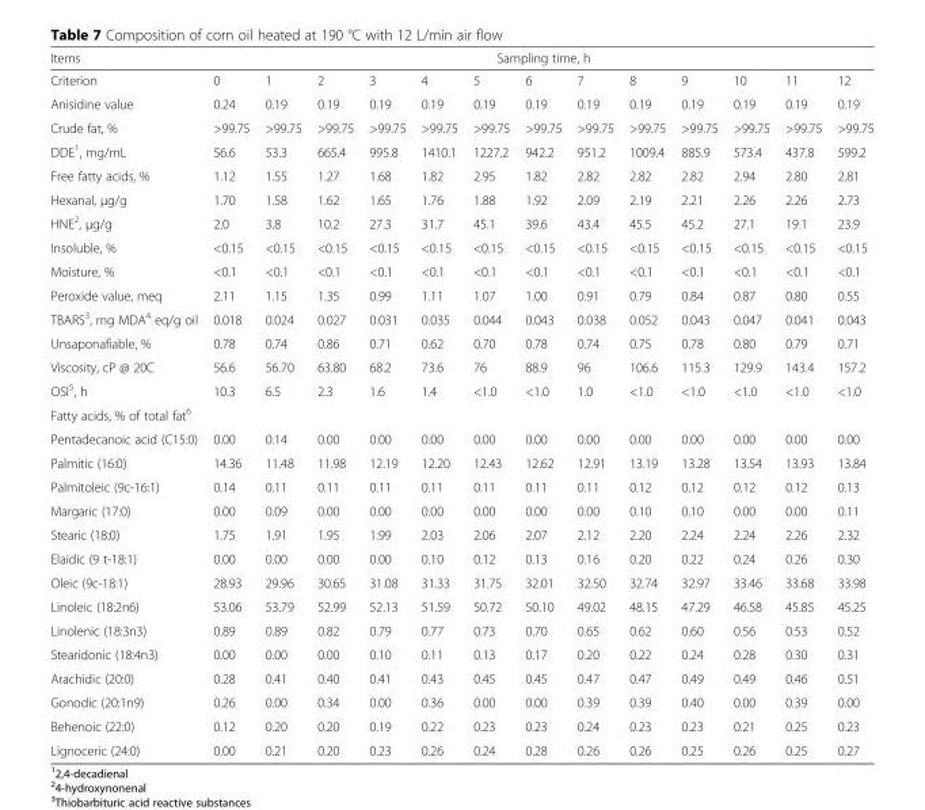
<table><thead><tr><td rowspan="2">Items Criterion</td><td colspan="13">Sampling time, h</td></tr><tr><td>0</td><td>1</td><td>2</td><td>3</td><td>4</td><td>5</td><td>6</td><td>7</td><td>8</td><td>9</td><td>10</td><td>11</td><td>12</td></tr></thead><tbody><tr><td>Anisidine value</td><td>0.24</td><td>0.19</td><td>0.19</td><td>0.19</td><td>0.19</td><td>0.19</td><td>0.19</td><td>0.19</td><td>0.19</td><td>0.19</td><td>0.19</td><td>0.19</td><td>0.19</td></tr><tr><td>Crude fat, %</td><td>&gt;99.75</td><td>&gt;99.75</td><td>&gt;99.75</td><td>&gt;99.75</td><td>&gt;99.75</td><td>&gt;99.75</td><td>&gt;99.75</td><td>&gt;99.75</td><td>&gt;99.75</td><td>&gt;99.75</td><td>&gt;99.75</td><td>&gt;99.75</td><td>&gt;99.75</td></tr><tr><td>DDE<sup>1</sup>, mg/mL</td><td>56.6</td><td>53.3</td><td>665.4</td><td>995.8</td><td>1410.1</td><td>1227.2</td><td>942.2</td><td>951.2</td><td>1009.4</td><td>885.9</td><td>573.4</td><td>437.8</td><td>599.2</td></tr><tr><td>Free fatty acids, %</td><td>1.12</td><td>1.55</td><td>1.27</td><td>1.68</td><td>1.82</td><td>2.95</td><td>1.82</td><td>2.82</td><td>2.82</td><td>2.82</td><td>2.94</td><td>2.80</td><td>2.81</td></tr><tr><td>Hexanal, μg/g</td><td>1.70</td><td>1.58</td><td>1.62</td><td>1.65</td><td>1.76</td><td>1.88</td><td>1.92</td><td>2.09</td><td>2.19</td><td>2.21</td><td>2.26</td><td>2.26</td><td>2.73</td></tr><tr><td>HNE<sup>2</sup>, μg/g</td><td>2.0</td><td>3.8</td><td>10.2</td><td>27.3</td><td>31.7</td><td>45.1</td><td>39.6</td><td>43.4</td><td>45.5</td><td>45.2</td><td>27.1</td><td>19.1</td><td>23.9</td></tr><tr><td>Insoluble, %</td><td>&lt;0.15</td><td>&lt;0.15</td><td>&lt;0.15</td><td>&lt;0.15</td><td>&lt;0.15</td><td>&lt;0.15</td><td>&lt;0.15</td><td>&lt;0.15</td><td>&lt;0.15</td><td>&lt;0.15</td><td>&lt;0.15</td><td>&lt;0.15</td><td>&lt;0.15</td></tr><tr><td>Moisture, %</td><td>&lt;0.1</td><td>&lt;0.1</td><td>&lt;0.1</td><td>&lt;0.1</td><td>&lt;0.1</td><td>&lt;0.1</td><td>&lt;0.1</td><td>&lt;0.1</td><td>&lt;0.1</td><td>&lt;0.1</td><td>&lt;0.1</td><td>&lt;0.1</td><td>&lt;0.1</td></tr><tr><td>Peroxide value, meq</td><td>2.11</td><td>1.15</td><td>1.35</td><td>0.99</td><td>1.11</td><td>1.07</td><td>1.00</td><td>0.91</td><td>0.79</td><td>0.84</td><td>0.87</td><td>0.80</td><td>0.55</td></tr><tr><td>TBARS<sup>3</sup>, mg MDA<sup>4</sup> eq/g oil</td><td>0.018</td><td>0.024</td><td>0.027</td><td>0.031</td><td>0.035</td><td>0.044</td><td>0.043</td><td>0.038</td><td>0.052</td><td>0.043</td><td>0.047</td><td>0.041</td><td>0.043</td></tr><tr><td>Unsaponafiable, %</td><td>0.78</td><td>0.74</td><td>0.86</td><td>0.71</td><td>0.62</td><td>0.70</td><td>0.78</td><td>0.74</td><td>0.75</td><td>0.78</td><td>0.80</td><td>0.79</td><td>0.71</td></tr><tr><td>Viscosity, cP @ 20C</td><td>56.6</td><td>56.70</td><td>63.80</td><td>68.2</td><td>73.6</td><td>76</td><td>88.9</td><td>96</td><td>106.6</td><td>115.3</td><td>129.9</td><td>143.4</td><td>157.2</td></tr><tr><td>OSI<sup>5</sup>, h</td><td>10.3</td><td>6.5</td><td>2.3</td><td>1.6</td><td>1.4</td><td>&lt;1.0</td><td>&lt;1.0</td><td>1.0</td><td>&lt;1.0</td><td>&lt;1.0</td><td>&lt;1.0</td><td>&lt;1.0</td><td>&lt;1.0</td></tr><tr><td colspan="14">Fatty acids, % of total fat<sup>6</sup></td></tr><tr><td>Pentadecanoic acid (C15:0)</td><td>0.00</td><td>0.14</td><td>0.00</td><td>0.00</td><td>0.00</td><td>0.00</td><td>0.00</td><td>0.00</td><td>0.00</td><td>0.00</td><td>0.00</td><td>0.00</td><td>0.00</td></tr><tr><td>Palmitic (16:0)</td><td>14.36</td><td>11.48</td><td>11.98</td><td>12.19</td><td>12.20</td><td>12.43</td><td>12.62</td><td>12.91</td><td>13.19</td><td>13.28</td><td>13.54</td><td>13.93</td><td>13.84</td></tr><tr><td>Palmitoleic (9c-16:1)</td><td>0.14</td><td>0.11</td><td>0.11</td><td>0.11</td><td>0.11</td><td>0.11</td><td>0.11</td><td>0.11</td><td>0.12</td><td>0.12</td><td>0.12</td><td>0.12</td><td>0.13</td></tr><tr><td>Margaric (17:0)</td><td>0.00</td><td>0.09</td><td>0.00</td><td>0.00</td><td>0.00</td><td>0.00</td><td>0.00</td><td>0.00</td><td>0.10</td><td>0.10</td><td>0.00</td><td>0.00</td><td>0.11</td></tr><tr><td>Stearic (18:0)</td><td>1.75</td><td>1.91</td><td>1.95</td><td>1.99</td><td>2.03</td><td>2.06</td><td>2.07</td><td>2.12</td><td>2.20</td><td>2.24</td><td>2.24</td><td>2.26</td><td>2.32</td></tr><tr><td>Elaidic (9 t-18:1)</td><td>0.00</td><td>0.00</td><td>0.00</td><td>0.00</td><td>0.10</td><td>0.12</td><td>0.13</td><td>0.16</td><td>0.20</td><td>0.22</td><td>0.24</td><td>0.26</td><td>0.30</td></tr><tr><td>Oleic (9c-18:1)</td><td>28.93</td><td>29.96</td><td>30.65</td><td>31.08</td><td>31.33</td><td>31.75</td><td>32.01</td><td>32.50</td><td>32.74</td><td>32.97</td><td>33.46</td><td>33.68</td><td>33.98</td></tr><tr><td>Linoleic (18:2n6)</td><td>53.06</td><td>53.79</td><td>52.99</td><td>52.13</td><td>51.59</td><td>50.72</td><td>50.10</td><td>49.02</td><td>48.15</td><td>47.29</td><td>46.58</td><td>45.85</td><td>45.25</td></tr><tr><td>Linolenic (18:3n3)</td><td>0.89</td><td>0.89</td><td>0.82</td><td>0.79</td><td>0.77</td><td>0.73</td><td>0.70</td><td>0.65</td><td>0.62</td><td>0.60</td><td>0.56</td><td>0.53</td><td>0.52</td></tr><tr><td>Stearidonic (18:4n3)</td><td>0.00</td><td>0.00</td><td>0.00</td><td>0.10</td><td>0.11</td><td>0.13</td><td>0.17</td><td>0.20</td><td>0.22</td><td>0.24</td><td>0.28</td><td>0.30</td><td>0.31</td></tr><tr><td>Arachidic (20:0)</td><td>0.28</td><td>0.41</td><td>0.40</td><td>0.41</td><td>0.43</td><td>0.45</td><td>0.45</td><td>0.47</td><td>0.47</td><td>0.49</td><td>0.49</td><td>0.46</td><td>0.51</td></tr><tr><td>Gonodic (20:1n9)</td><td>0.26</td><td>0.00</td><td>0.34</td><td>0.00</td><td>0.36</td><td>0.00</td><td>0.00</td><td>0.39</td><td>0.39</td><td>0.40</td><td>0.00</td><td>0.39</td><td>0.00</td></tr><tr><td>Behenoic (22:0)</td><td>0.12</td><td>0.20</td><td>0.20</td><td>0.19</td><td>0.22</td><td>0.23</td><td>0.23</td><td>0.24</td><td>0.23</td><td>0.23</td><td>0.21</td><td>0.25</td><td>0.23</td></tr><tr><td>Lignoceric (24:0)</td><td>0.00</td><td>0.21</td><td>0.20</td><td>0.23</td><td>0.26</td><td>0.24</td><td>0.28</td><td>0.26</td><td>0.26</td><td>0.25</td><td>0.26</td><td>0.25</td><td>0.27</td></tr></tbody></table>